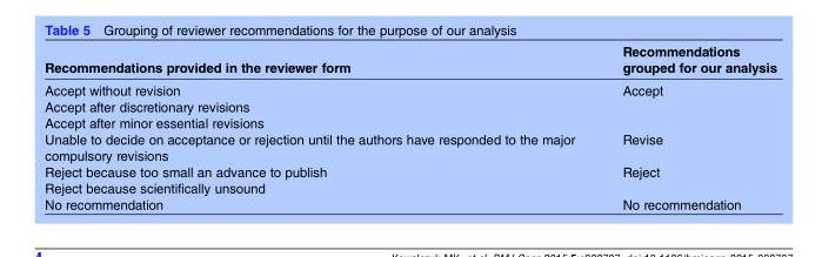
<table><thead><tr><td>Recommendations provided in the reviewer form</td><td>Recommendations grouped for our analysis</td></tr></thead><tbody><tr><td>Accept without revision</td><td rowspan="3">Accept</td></tr><tr><td>Accept after discretionary revisions</td></tr><tr><td>Accept after minor essential revisions</td></tr><tr><td>Unable to decide on acceptance or rejection until the authors have responded to the major compulsory revisions</td><td>Revise</td></tr><tr><td>Reject because too small an advance to publish</td><td rowspan="2">Reject</td></tr><tr><td>Reject because scientifically unsound</td></tr><tr><td>No recommendation</td><td>No recommendation</td></tr></tbody></table>